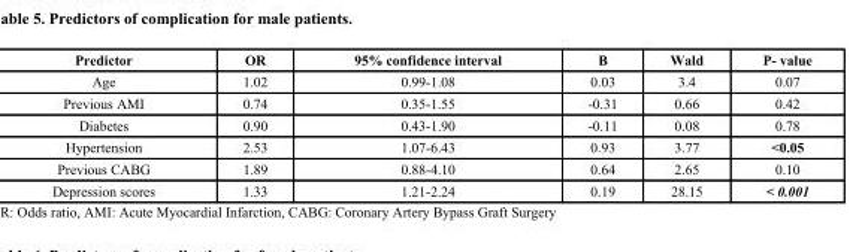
<table><thead><tr><td>Predictor</td><td>OR</td><td>95% confidence interval</td><td>B</td><td>Wald</td><td>P- value</td></tr></thead><tbody><tr><td>Age</td><td>1.02</td><td>0.99-1.08</td><td>0.03</td><td>3.4</td><td>0.07</td></tr><tr><td>Previous AMI</td><td>0.74</td><td>0.35-1.55</td><td>-0.31</td><td>0.66</td><td>0.42</td></tr><tr><td>Diabetes</td><td>0.90</td><td>0.43-1.90</td><td>-0.11</td><td>0.08</td><td>0.78</td></tr><tr><td>Hypertension</td><td>2.53</td><td>1.07-6.43</td><td>0.93</td><td>3.77</td><td>&lt;0.05</td></tr><tr><td>Previous CABG</td><td>1.89</td><td>0.88-4.10</td><td>0.64</td><td>2.65</td><td>0.10</td></tr><tr><td>Depression scores</td><td>1.33</td><td>1.21-2.24</td><td>0.19</td><td>28.15</td><td>&lt; 0.001</td></tr></tbody></table>